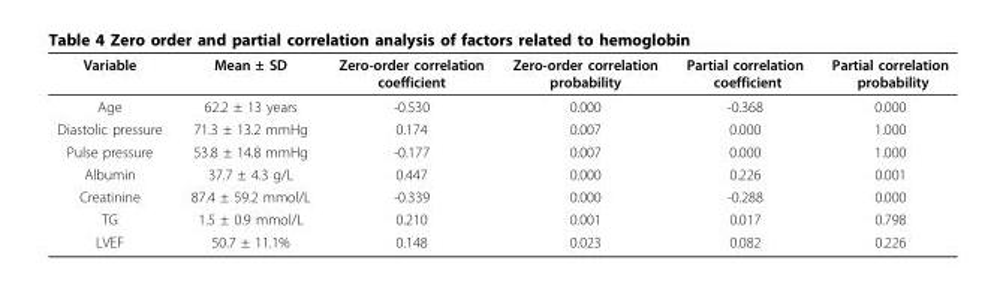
<table><thead><tr><td>Variable</td><td>Mean ± SD</td><td>Zero-order correlation coefficient</td><td>Zero-order correlation probability</td><td>Partial correlation coefficient</td><td>Partial correlation probability</td></tr></thead><tbody><tr><td>Age</td><td>62.2 ± 13 years</td><td>-0.530</td><td>0.000</td><td>-0.368</td><td>0.000</td></tr><tr><td>Diastolic pressure</td><td>71.3 ± 13.2 mmHg</td><td>0.174</td><td>0.007</td><td>0.000</td><td>1.000</td></tr><tr><td>Pulse pressure</td><td>53.8 ± 14.8 mmHg</td><td>-0.177</td><td>0.007</td><td>0.000</td><td>1.000</td></tr><tr><td>Albumin</td><td>37.7 ± 4.3 g/L</td><td>0.447</td><td>0.000</td><td>0.226</td><td>0.001</td></tr><tr><td>Creatinine</td><td>87.4 ± 59.2 mmol/L</td><td>-0.339</td><td>0.000</td><td>-0.288</td><td>0.000</td></tr><tr><td>TG</td><td>1.5 ± 0.9 mmol/L</td><td>0.210</td><td>0.001</td><td>0.017</td><td>0.798</td></tr><tr><td>LVEF</td><td>50.7 ± 11.1%</td><td>0.148</td><td>0.023</td><td>0.082</td><td>0.226</td></tr></tbody></table>